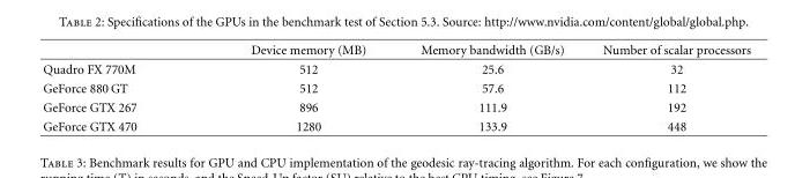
<table><thead><tr><td></td><td>Device memory (MB)</td><td>Memory bandwidth (GB/s)</td><td>Number of scalar processors</td></tr></thead><tbody><tr><td>Quadro FX 770M</td><td>512</td><td>25.6</td><td>32</td></tr><tr><td>GeForce 880 GT</td><td>512</td><td>57.6</td><td>112</td></tr><tr><td>GeForce GTX 267</td><td>896</td><td>111.9</td><td>192</td></tr><tr><td>GeForce GTX 470</td><td>1280</td><td>133.9</td><td>448</td></tr></tbody></table>